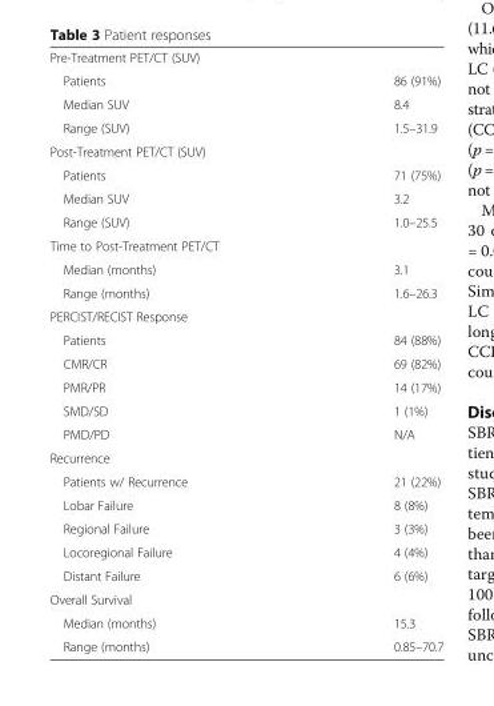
<table><tbody><tr><td colspan="2">Pre-Treatment PET/CT (SUV)</td></tr><tr><td>Patients</td><td>86 (91%)</td></tr><tr><td>Median SUV</td><td>8.4</td></tr><tr><td>Range (SUV)</td><td>1.5–31.9</td></tr><tr><td colspan="2">Post-Treatment PET/CT (SUV)</td></tr><tr><td>Patients</td><td>71 (75%)</td></tr><tr><td>Median SUV</td><td>3.2</td></tr><tr><td>Range (SUV)</td><td>1.0–25.5</td></tr><tr><td colspan="2">Time to Post-Treatment PET/CT</td></tr><tr><td>Median (months)</td><td>3.1</td></tr><tr><td>Range (months)</td><td>1.6–26.3</td></tr><tr><td colspan="2">PERCIST/RECIST Response</td></tr><tr><td>Patients</td><td>84 (88%)</td></tr><tr><td>CMR/CR</td><td>69 (82%)</td></tr><tr><td>PMR/PR</td><td>14 (17%)</td></tr><tr><td>SMD/SD</td><td>1 (1%)</td></tr><tr><td>PMD/PD</td><td>N/A</td></tr><tr><td colspan="2">Recurrence</td></tr><tr><td>Patients w/ Recurrence</td><td>21 (22%)</td></tr><tr><td>Lobar Failure</td><td>8 (8%)</td></tr><tr><td>Regional Failure</td><td>3 (3%)</td></tr><tr><td>Locoregional Failure</td><td>4 (4%)</td></tr><tr><td>Distant Failure</td><td>6 (6%)</td></tr><tr><td colspan="2">Overall Survival</td></tr><tr><td>Median (months)</td><td>15.3</td></tr><tr><td>Range (months)</td><td>0.85–70.7</td></tr></tbody></table>